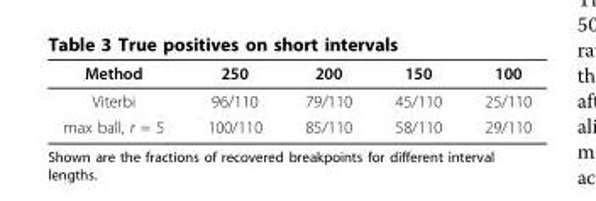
<table><thead><tr><td>Method</td><td>250</td><td>200</td><td>150</td><td>100</td></tr></thead><tbody><tr><td>Viterbi</td><td>96/110</td><td>79/110</td><td>45/110</td><td>25/110</td></tr><tr><td>max ball, r = 5</td><td>100/110</td><td>85/110</td><td>58/110</td><td>29/110</td></tr></tbody></table>